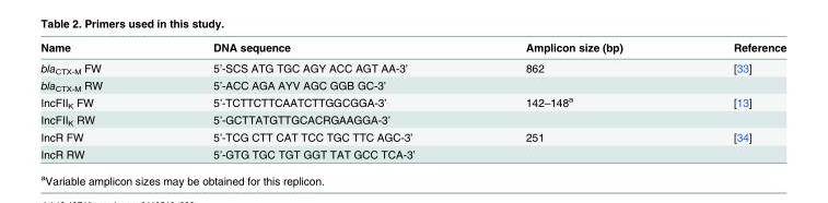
<table><thead><tr><td>Name</td><td>DNA sequence</td><td>Amplicon size (bp)</td><td>Reference</td></tr></thead><tbody><tr><td>bla<sub>CTX-M</sub> FW</td><td>5’-SCS ATG TGC AGY ACC AGT AA-3’</td><td>862</td><td>[33]</td></tr><tr><td>bla<sub>CTX-M</sub> RW</td><td>5’-ACC AGA AYV AGC GGB GC-3’</td><td></td><td></td></tr><tr><td>IncFII<sub>K</sub> FW</td><td>5’-TCTTCTTCAATCTTGGCGGA-3’</td><td>142–148<sup>a</sup></td><td>[13]</td></tr><tr><td>IncFII<sub>K</sub> RW</td><td>5’-GCTTATGTTGCACRGAAGGA-3’</td><td></td><td></td></tr><tr><td>IncR FW</td><td>5’-TCG CTT CAT TCC TGC TTC AGC-3’</td><td>251</td><td>[34]</td></tr><tr><td>IncR RW</td><td>5’-GTG TGC TGT GGT TAT GCC TCA-3’</td><td></td><td></td></tr></tbody></table>